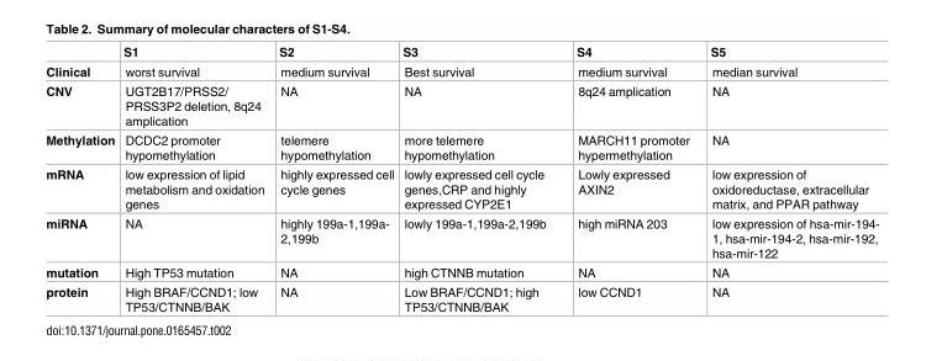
<table><thead><tr><td></td><td>S1</td><td>S2</td><td>S3</td><td>S4</td><td>S5</td></tr></thead><tbody><tr><td>Clinical</td><td>worst survival</td><td>medium survival</td><td>Best survival</td><td>medium survival</td><td>median survival</td></tr><tr><td>CNV</td><td>UGT2B17/PRSS2/ PRSS3P2 deletion, 8q24 amplication</td><td>NA</td><td>NA</td><td>8q24 amplication</td><td>NA</td></tr><tr><td>Methylation</td><td>DCDC2 promoter hypomethylation</td><td>telemere hypomethylation</td><td>more telemere hypomethylation</td><td>MARCH11 promoter hypermethylation</td><td>NA</td></tr><tr><td>mRNA</td><td>low expression of lipid metabolism and oxidation genes</td><td>highly expressed cell cycle genes</td><td>lowly expressed cell cycle genes,CRP and highly expressed CYP2E1</td><td>Lowly expressed AXIN2</td><td>low expression of oxidoreductase, extracellular matrix, and PPAR pathway</td></tr><tr><td>miRNA</td><td>NA</td><td>highly 199a-1,199a- 2,199b</td><td>lowly 199a-1,199a-2,199b</td><td>high miRNA 203</td><td>low expression of hsa-mir-194- 1, hsa-mir-194-2, hsa-mir-192, hsa-mir-122</td></tr><tr><td>mutation</td><td>High TP53 mutation</td><td>NA</td><td>high CTNNB mutation</td><td>NA</td><td>NA</td></tr><tr><td>protein</td><td>High BRAF/CCND1; low TP53/CTNNB/BAK</td><td>NA</td><td>Low BRAF/CCND1; high TP53/CTNNB/BAK</td><td>low CCND1</td><td>NA</td></tr></tbody></table>